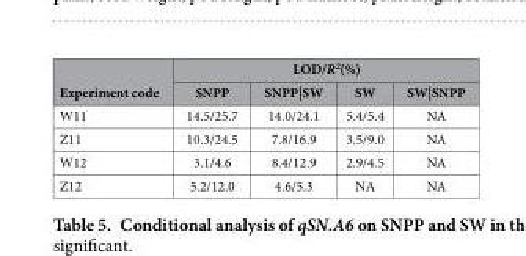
<table><thead><tr><td rowspan="2">Experiment code</td><td colspan="4">LOD/R<sup>2</sup>(%)</td></tr><tr><td>SNPP</td><td>SNPP|SW</td><td>SW</td><td>SW|SNPP</td></tr></thead><tbody><tr><td>W11</td><td>14.5/25.7</td><td>14.0/24.1</td><td>5.4/5.4</td><td>NA</td></tr><tr><td>Z11</td><td>10.3/24.5</td><td>7.8/16.9</td><td>3.5/9.0</td><td>NA</td></tr><tr><td>W12</td><td>3.1/4.6</td><td>8.4/12.9</td><td>2.9/4.5</td><td>NA</td></tr><tr><td>Z12</td><td>5.2/12.0</td><td>4.6/5.3</td><td>NA</td><td>NA</td></tr></tbody></table>